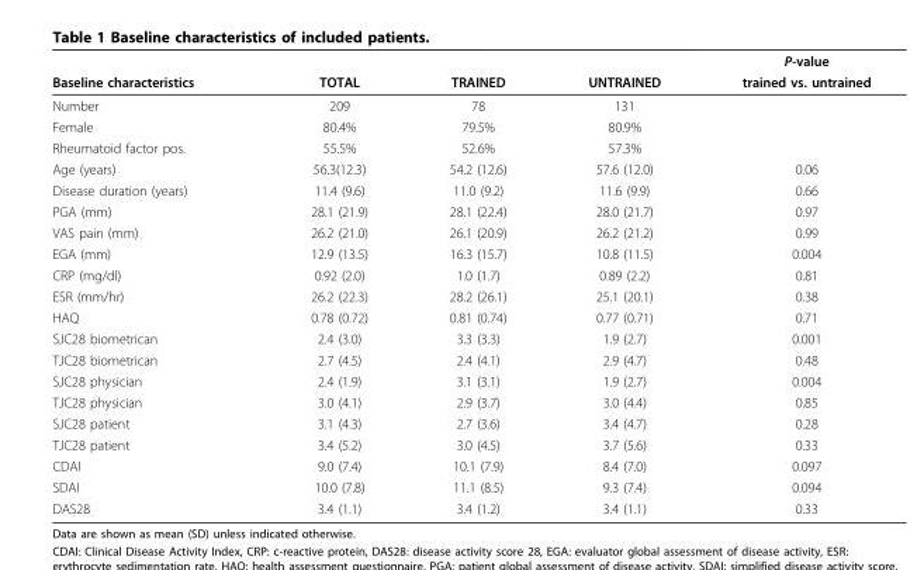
<table><thead><tr><td rowspan="2">Baseline characteristics</td><td rowspan="2">TOTAL</td><td rowspan="2">TRAINED</td><td rowspan="2">UNTRAINED</td><td rowspan="2">P-value trained vs. untrained</td></tr><tr></tr></thead><tbody><tr><td>Number</td><td>209</td><td>78</td><td>131</td><td></td></tr><tr><td>Female</td><td>80.4%</td><td>79.5%</td><td>80.9%</td><td></td></tr><tr><td>Rheumatoid factor pos.</td><td>55.5%</td><td>52.6%</td><td>57.3%</td><td></td></tr><tr><td>Age (years)</td><td>56.3(12.3)</td><td>54.2 (12.6)</td><td>57.6 (12.0)</td><td>0.06</td></tr><tr><td>Disease duration (years)</td><td>11.4 (9.6)</td><td>11.0 (9.2)</td><td>11.6 (9.9)</td><td>0.66</td></tr><tr><td>PGA (mm)</td><td>28.1 (21.9)</td><td>28.1 (22.4)</td><td>28.0 (21.7)</td><td>0.97</td></tr><tr><td>VAS pain (mm)</td><td>26.2 (21.0)</td><td>26.1 (20.9)</td><td>26.2 (21.2)</td><td>0.99</td></tr><tr><td>EGA (mm)</td><td>12.9 (13.5)</td><td>16.3 (15.7)</td><td>10.8 (11.5)</td><td>0.004</td></tr><tr><td>CRP (mg/dl)</td><td>0.92 (2.0)</td><td>1.0 (1.7)</td><td>0.89 (2.2)</td><td>0.81</td></tr><tr><td>ESR (mm/hr)</td><td>26.2 (22.3)</td><td>28.2 (26.1)</td><td>25.1 (20.1)</td><td>0.38</td></tr><tr><td>HAQ</td><td>0.78 (0.72)</td><td>0.81 (0.74)</td><td>0.77 (0.71)</td><td>0.71</td></tr><tr><td>SJC28 biometrican</td><td>2.4 (3.0)</td><td>3.3 (3.3)</td><td>1.9 (2.7)</td><td>0.001</td></tr><tr><td>TJC28 biometrican</td><td>2.7 (4.5)</td><td>2.4 (4.1)</td><td>2.9 (4.7)</td><td>0.48</td></tr><tr><td>SJC28 physician</td><td>2.4 (1.9)</td><td>3.1 (3.1)</td><td>1.9 (2.7)</td><td>0.004</td></tr><tr><td>TJC28 physician</td><td>3.0 (4.1)</td><td>2.9 (3.7)</td><td>3.0 (4.4)</td><td>0.85</td></tr><tr><td>SJC28 patient</td><td>3.1 (4.3)</td><td>2.7 (3.6)</td><td>3.4 (4.7)</td><td>0.28</td></tr><tr><td>TJC28 patient</td><td>3.4 (5.2)</td><td>3.0 (4.5)</td><td>3.7 (5.6)</td><td>0.33</td></tr><tr><td>CDAI</td><td>9.0 (7.4)</td><td>10.1 (7.9)</td><td>8.4 (7.0)</td><td>0.097</td></tr><tr><td>SDAI</td><td>10.0 (7.8)</td><td>11.1 (8.5)</td><td>9.3 (7.4)</td><td>0.094</td></tr><tr><td>DAS28</td><td>3.4 (1.1)</td><td>3.4 (1.2)</td><td>3.4 (1.1)</td><td>0.33</td></tr></tbody></table>